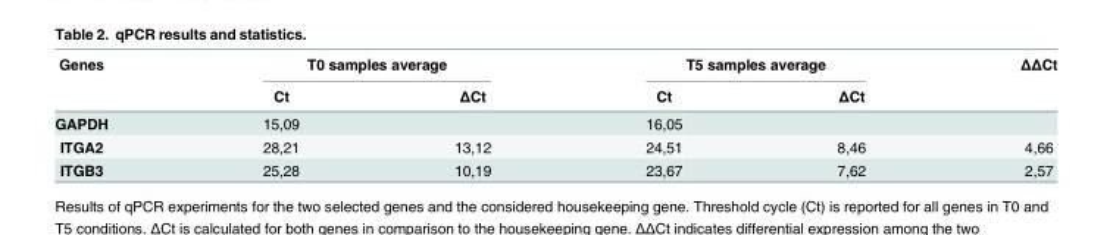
<table><thead><tr><td rowspan="2">Genes</td><td colspan="2">T0 samples average</td><td colspan="2">T5 samples average</td><td rowspan="2">ΔΔCt</td></tr><tr><td>Ct</td><td>ΔCt</td><td>Ct</td><td>ΔCt</td></tr></thead><tbody><tr><td>GAPDH</td><td>15,09</td><td></td><td>16,05</td><td></td><td></td></tr><tr><td>ITGA2</td><td>28,21</td><td>13,12</td><td>24,51</td><td>8,46</td><td>4,66</td></tr><tr><td>ITGB3</td><td>25,28</td><td>10,19</td><td>23,67</td><td>7,62</td><td>2,57</td></tr></tbody></table>